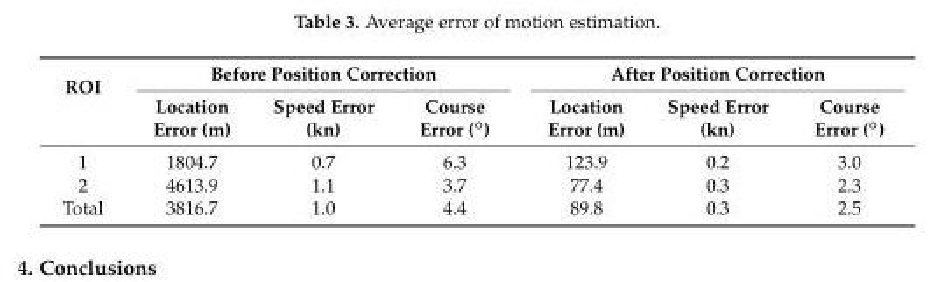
<table><thead><tr><td rowspan="2">ROI</td><td colspan="3">Before Position Correction</td><td colspan="3">After Position Correction</td></tr><tr><td>Location Error (m)</td><td>Speed Error (kn)</td><td>Course Error (◦)</td><td>Location Error (m)</td><td>Speed Error (kn)</td><td>Course Error (◦)</td></tr></thead><tbody><tr><td>1</td><td>1804.7</td><td>0.7</td><td>6.3</td><td>123.9</td><td>0.2</td><td>3.0</td></tr><tr><td>2</td><td>4613.9</td><td>1.1</td><td>3.7</td><td>77.4</td><td>0.3</td><td>2.3</td></tr><tr><td>Total</td><td>3816.7</td><td>1.0</td><td>4.4</td><td>89.8</td><td>0.3</td><td>2.5</td></tr></tbody></table>